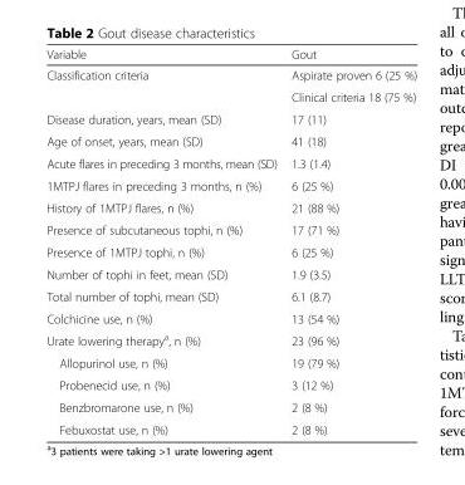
<table><thead><tr><td>Variable</td><td>Gout</td></tr></thead><tbody><tr><td rowspan="2">Classification criteria</td><td>Aspirate proven 6 (25 %)</td></tr><tr><td>Clinical criteria 18 (75 %)</td></tr><tr><td>Disease duration, years, mean (SD)</td><td>17 (11)</td></tr><tr><td>Age of onset, years, mean (SD)</td><td>41 (18)</td></tr><tr><td>Acute flares in preceding 3 months, mean (SD)</td><td>1.3 (1.4)</td></tr><tr><td>1MTPJ flares in preceding 3 months, n (%)</td><td>6 (25 %)</td></tr><tr><td>History of 1MTPJ flares, n (%)</td><td>21 (88 %)</td></tr><tr><td>Presence of subcutaneous tophi, n (%)</td><td>17 (71 %)</td></tr><tr><td>Presence of 1MTPJ tophi, n (%)</td><td>6 (25 %)</td></tr><tr><td>Number of tophi in feet, mean (SD)</td><td>1.9 (3.5)</td></tr><tr><td>Total number of tophi, mean (SD)</td><td>6.1 (8.7)</td></tr><tr><td>Colchicine use, n (%)</td><td>13 (54 %)</td></tr><tr><td>Urate lowering therapy<sup>a</sup>, n (%)</td><td>23 (96 %)</td></tr><tr><td>Allopurinol use, n (%)</td><td>19 (79 %)</td></tr><tr><td>Probenecid use, n (%)</td><td>3 (12 %)</td></tr><tr><td>Benzbromarone use, n (%)</td><td>2 (8 %)</td></tr><tr><td>Febuxostat use, n (%)</td><td>2 (8 %)</td></tr></tbody></table>